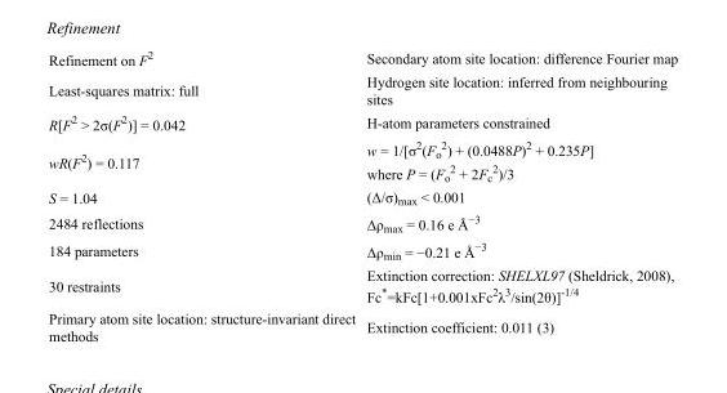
<table><tbody><tr><td>Refinement on F<sup>2</sup></td><td>Secondary atom site location: difference Fourier map</td></tr><tr><td>Least-squares matrix: full</td><td>Hydrogen site location: inferred from neighbouring sites</td></tr><tr><td>R[F<sup>2</sup> &gt; 2σ(F<sup>2</sup>)] = 0.042</td><td>H-atom parameters constrained</td></tr><tr><td>wR(F<sup>2</sup>) = 0.117</td><td>w = 1/[σ<sup>2</sup>(F<sub>o</sub> <sup>2</sup>) + (0.0488P)<sup>2</sup> + 0.235P] where P = (F<sub>o</sub> <sup>2</sup> + 2F<sub>c</sub> <sup>2</sup>)/3</td></tr><tr><td>S = 1.04</td><td>(Δ/σ)<sub>max</sub> &lt; 0.001</td></tr><tr><td>2484 reflections</td><td>Δρ<sub>max</sub> = 0.16 e Å<sup>−3</sup></td></tr><tr><td>184 parameters</td><td>Δρ<sub>min</sub> = −0.21 e Å<sup>−3</sup></td></tr><tr><td>30 restraints</td><td>Extinction correction: SHELXL97 (Sheldrick, 2008), Fc*=kFc[1+0.001xFc<sup>2</sup>λ<sup>3</sup>/sin(2θ)]<sup>-1/4</sup></td></tr><tr><td>Primary atom site location: structure-invariant direct methods</td><td>Extinction coefficient: 0.011 (3)</td></tr></tbody></table>